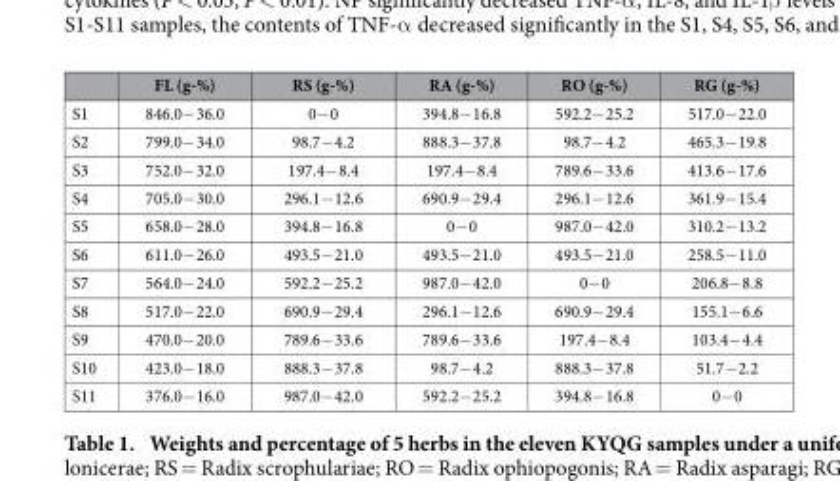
<table><thead><tr><td></td><td>FL (g-%)</td><td>RS (g-%)</td><td>RA (g-%)</td><td>RO (g-%)</td><td>RG (g-%)</td></tr></thead><tbody><tr><td>S1</td><td>846.0− 36.0</td><td>0− 0</td><td>394.8− 16.8</td><td>592.2− 25.2</td><td>517.0− 22.0</td></tr><tr><td>S2</td><td>799.0− 34.0</td><td>98.7− 4.2</td><td>888.3− 37.8</td><td>98.7− 4.2</td><td>465.3− 19.8</td></tr><tr><td>S3</td><td>752.0− 32.0</td><td>197.4− 8.4</td><td>197.4− 8.4</td><td>789.6− 33.6</td><td>413.6− 17.6</td></tr><tr><td>S4</td><td>705.0− 30.0</td><td>296.1− 12.6</td><td>690.9− 29.4</td><td>296.1− 12.6</td><td>361.9− 15.4</td></tr><tr><td>S5</td><td>658.0− 28.0</td><td>394.8− 16.8</td><td>0− 0</td><td>987.0− 42.0</td><td>310.2− 13.2</td></tr><tr><td>S6</td><td>611.0− 26.0</td><td>493.5− 21.0</td><td>493.5− 21.0</td><td>493.5− 21.0</td><td>258.5− 11.0</td></tr><tr><td>S7</td><td>564.0− 24.0</td><td>592.2− 25.2</td><td>987.0− 42.0</td><td>0− 0</td><td>206.8− 8.8</td></tr><tr><td>S8</td><td>517.0− 22.0</td><td>690.9− 29.4</td><td>296.1− 12.6</td><td>690.9− 29.4</td><td>155.1− 6.6</td></tr><tr><td>S9</td><td>470.0− 20.0</td><td>789.6− 33.6</td><td>789.6− 33.6</td><td>197.4− 8.4</td><td>103.4− 4.4</td></tr><tr><td>S10</td><td>423.0− 18.0</td><td>888.3− 37.8</td><td>98.7− 4.2</td><td>888.3− 37.8</td><td>51.7− 2.2</td></tr><tr><td>S11</td><td>376.0− 16.0</td><td>987.0− 42.0</td><td>592.2− 25.2</td><td>394.8− 16.8</td><td>0− 0</td></tr></tbody></table>